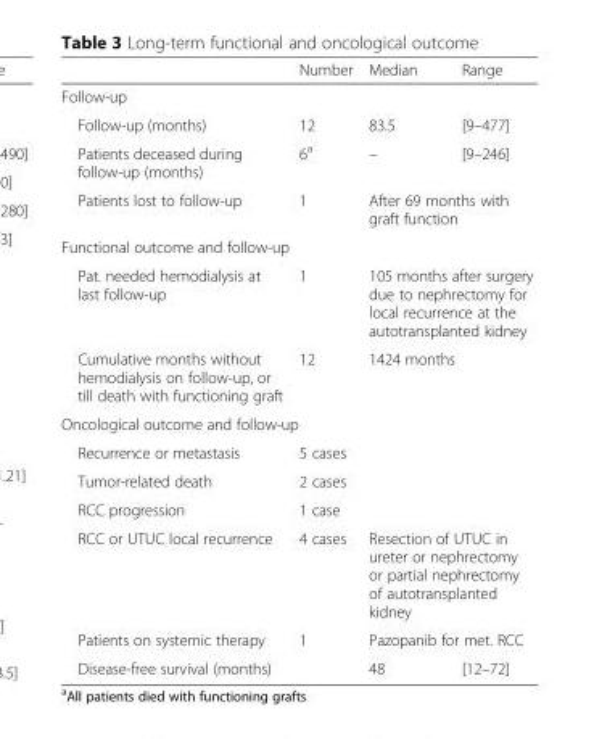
<table><thead><tr><td></td><td>Number</td><td>Median</td><td>Range</td></tr></thead><tbody><tr><td colspan="4">Follow-up</td></tr><tr><td>Follow-up (months)</td><td>12</td><td>83.5</td><td>[9–477]</td></tr><tr><td>Patients deceased during follow-up (months)</td><td>6<sup>a</sup></td><td>–</td><td>[9–246]</td></tr><tr><td>Patients lost to follow-up</td><td>1</td><td colspan="2">After 69 months with graft function</td></tr><tr><td colspan="4">Functional outcome and follow-up</td></tr><tr><td>Pat. needed hemodialysis at last follow-up</td><td>1</td><td colspan="2">105 months after surgery due to nephrectomy for local recurrence at the autotransplanted kidney</td></tr><tr><td>Cumulative months without hemodialysis on follow-up, or till death with functioning graft</td><td>12</td><td colspan="2">1424 months</td></tr><tr><td colspan="4">Oncological outcome and follow-up</td></tr><tr><td>Recurrence or metastasis</td><td colspan="3">5 cases</td></tr><tr><td>Tumor-related death</td><td colspan="3">2 cases</td></tr><tr><td>RCC progression</td><td colspan="3">1 case</td></tr><tr><td>RCC or UTUC local recurrence</td><td>4 cases</td><td colspan="2">Resection of UTUC in ureter or nephrectomy or partial nephrectomy of autotransplanted kidney</td></tr><tr><td>Patients on systemic therapy</td><td>1</td><td colspan="2">Pazopanib for met. RCC</td></tr><tr><td>Disease-free survival (months)</td><td></td><td>48</td><td>[12–72]</td></tr></tbody></table>